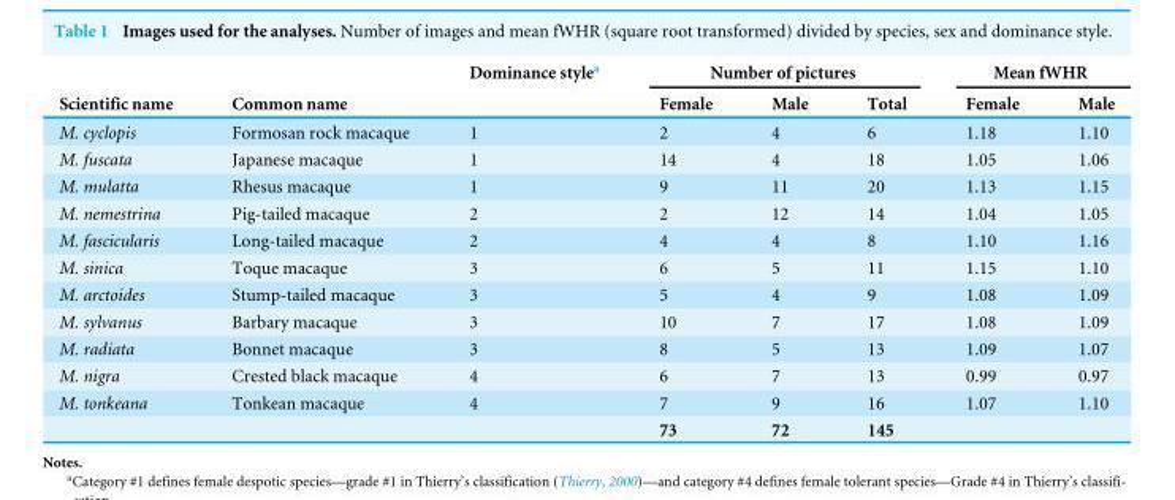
<table><thead><tr><td rowspan="2">Scientific name</td><td rowspan="2">Common name</td><td rowspan="2">Dominance style<sup>a</sup></td><td colspan="3">Number of pictures</td><td colspan="2">Mean fWHR</td></tr><tr><td>Female</td><td>Male</td><td>Total</td><td>Female</td><td>Male</td></tr></thead><tbody><tr><td>M. cyclopis</td><td>Formosan rock macaque</td><td>1</td><td>2</td><td>4</td><td>6</td><td>1.18</td><td>1.10</td></tr><tr><td>M. fuscata</td><td>Japanese macaque</td><td>1</td><td>14</td><td>4</td><td>18</td><td>1.05</td><td>1.06</td></tr><tr><td>M. mulatta</td><td>Rhesus macaque</td><td>1</td><td>9</td><td>11</td><td>20</td><td>1.13</td><td>1.15</td></tr><tr><td>M. nemestrina</td><td>Pig-tailed macaque</td><td>2</td><td>2</td><td>12</td><td>14</td><td>1.04</td><td>1.05</td></tr><tr><td>M. fascicularis</td><td>Long-tailed macaque</td><td>2</td><td>4</td><td>4</td><td>8</td><td>1.10</td><td>1.16</td></tr><tr><td>M. sinica</td><td>Toque macaque</td><td>3</td><td>6</td><td>5</td><td>11</td><td>1.15</td><td>1.10</td></tr><tr><td>M. arctoides</td><td>Stump-tailed macaque</td><td>3</td><td>5</td><td>4</td><td>9</td><td>1.08</td><td>1.09</td></tr><tr><td>M. sylvanus</td><td>Barbary macaque</td><td>3</td><td>10</td><td>7</td><td>17</td><td>1.08</td><td>1.09</td></tr><tr><td>M. radiata</td><td>Bonnet macaque</td><td>3</td><td>8</td><td>5</td><td>13</td><td>1.09</td><td>1.07</td></tr><tr><td>M. nigra</td><td>Crested black macaque</td><td>4</td><td>6</td><td>7</td><td>13</td><td>0.99</td><td>0.97</td></tr><tr><td rowspan="2">M. tonkeana</td><td>Tonkean macaque</td><td>4</td><td>7</td><td>9</td><td>16</td><td>1.07</td><td>1.10</td></tr><tr><td></td><td></td><td>73</td><td>72</td><td>145</td><td></td><td></td></tr></tbody></table>